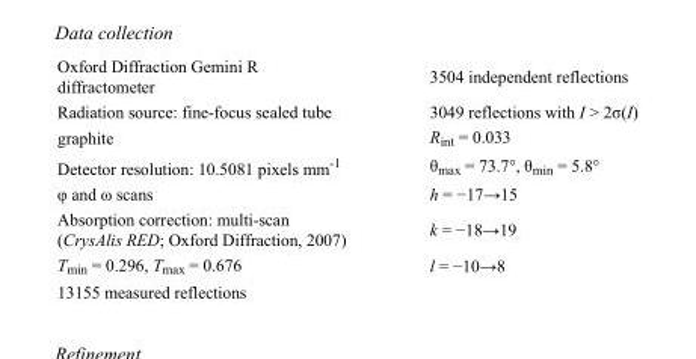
<table><tbody><tr><td>Oxford Diffraction Gemini R diffractometer</td><td>3504 independent reflections</td></tr><tr><td>Radiation source: fine-focus sealed tube</td><td>3049 reflections with I &gt; 2σ(I)</td></tr><tr><td>graphite</td><td>R<sub>int</sub> = 0.033</td></tr><tr><td>Detector resolution: 10.5081 pixels mm<sup>-1</sup></td><td>θ<sub>max</sub> = 73.7°, θ<sub>min</sub> = 5.8°</td></tr><tr><td>φ and ω scans</td><td>h = −17→15</td></tr><tr><td>Absorption correction: multi-scan (CrysAlis RED; Oxford Diffraction, 2007)</td><td>k = −18→19</td></tr><tr><td>T<sub>min</sub> = 0.296, T<sub>max</sub> = 0.676</td><td>l = −10→8</td></tr><tr><td>13155 measured reflections</td><td></td></tr></tbody></table>